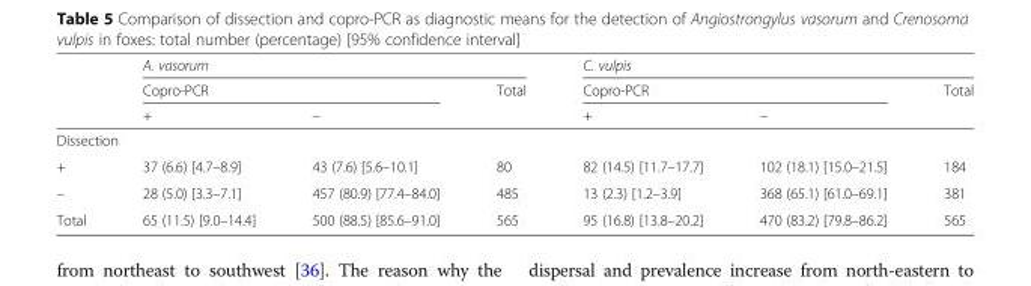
<table><thead><tr><td rowspan="3"></td><td colspan="3">A. vasorum</td><td colspan="3">C. vulpis</td></tr><tr><td colspan="2">Copro-PCR</td><td rowspan="2">Total</td><td colspan="2">Copro-PCR</td><td rowspan="2">Total</td></tr><tr><td>+</td><td>–</td><td>+</td><td>–</td></tr></thead><tbody><tr><td colspan="7">Dissection</td></tr><tr><td>+</td><td>37 (6.6) [4.7–8.9]</td><td>43 (7.6) [5.6–10.1]</td><td>80</td><td>82 (14.5) [11.7–17.7]</td><td>102 (18.1) [15.0–21.5]</td><td>184</td></tr><tr><td>–</td><td>28 (5.0) [3.3–7.1]</td><td>457 (80.9) [77.4–84.0]</td><td>485</td><td>13 (2.3) [1.2–3.9]</td><td>368 (65.1) [61.0–69.1]</td><td>381</td></tr><tr><td>Total</td><td>65 (11.5) [9.0–14.4]</td><td>500 (88.5) [85.6–91.0]</td><td>565</td><td>95 (16.8) [13.8–20.2]</td><td>470 (83.2) [79.8–86.2]</td><td>565</td></tr></tbody></table>